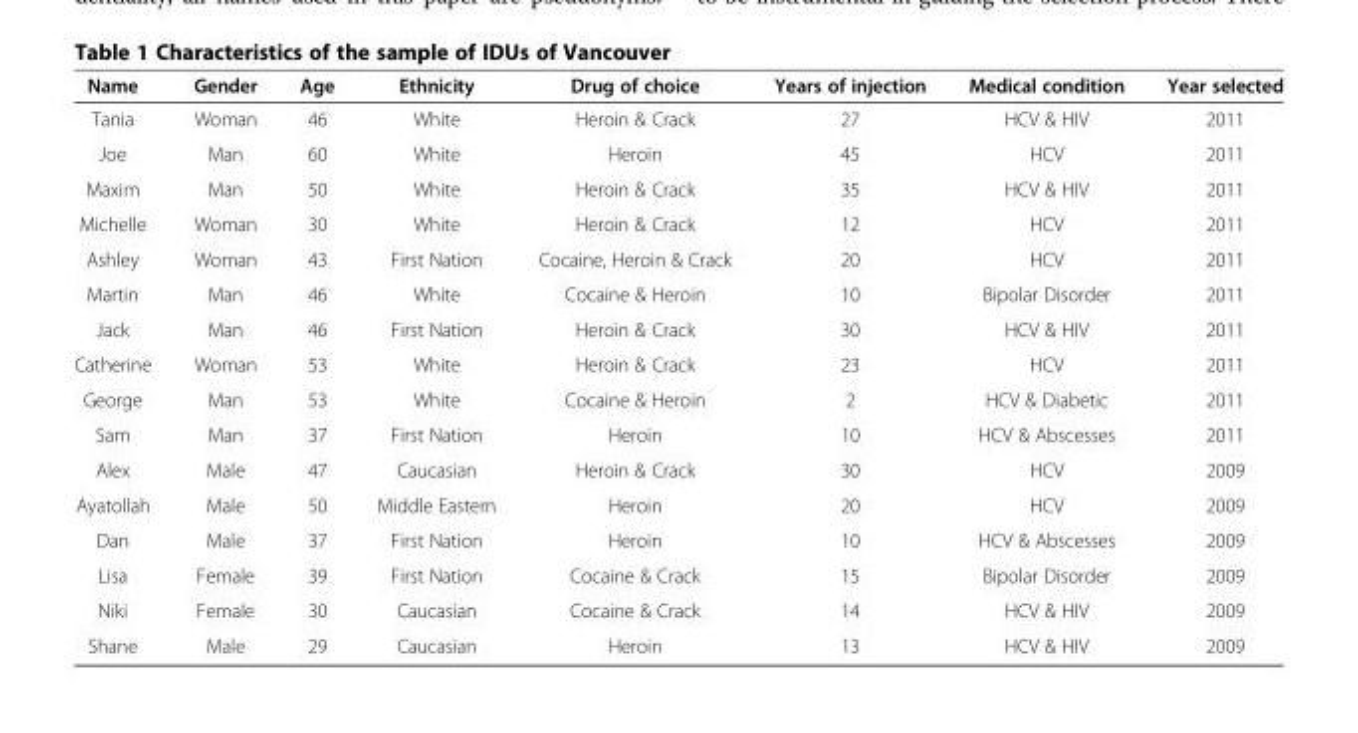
<table><thead><tr><td>Name</td><td>Gender</td><td>Age</td><td>Ethnicity</td><td>Drug of choice</td><td>Years of injection</td><td>Medical condition</td><td>Year selected</td></tr></thead><tbody><tr><td>Tania</td><td>Woman</td><td>46</td><td>White</td><td>Heroin &amp; Crack</td><td>27</td><td>HCV &amp; HIV</td><td>2011</td></tr><tr><td>Joe</td><td>Man</td><td>60</td><td>White</td><td>Heroin</td><td>45</td><td>HCV</td><td>2011</td></tr><tr><td>Maxim</td><td>Man</td><td>50</td><td>White</td><td>Heroin &amp; Crack</td><td>35</td><td>HCV &amp; HIV</td><td>2011</td></tr><tr><td>Michelle</td><td>Woman</td><td>30</td><td>White</td><td>Heroin &amp; Crack</td><td>12</td><td>HCV</td><td>2011</td></tr><tr><td>Ashley</td><td>Woman</td><td>43</td><td>First Nation</td><td>Cocaine, Heroin &amp; Crack</td><td>20</td><td>HCV</td><td>2011</td></tr><tr><td>Martin</td><td>Man</td><td>46</td><td>White</td><td>Cocaine &amp; Heroin</td><td>10</td><td>Bipolar Disorder</td><td>2011</td></tr><tr><td>Jack</td><td>Man</td><td>46</td><td>First Nation</td><td>Heroin &amp; Crack</td><td>30</td><td>HCV &amp; HIV</td><td>2011</td></tr><tr><td>Catherine</td><td>Woman</td><td>53</td><td>White</td><td>Heroin &amp; Crack</td><td>23</td><td>HCV</td><td>2011</td></tr><tr><td>George</td><td>Man</td><td>53</td><td>White</td><td>Cocaine &amp; Heroin</td><td>2</td><td>HCV &amp; Diabetic</td><td>2011</td></tr><tr><td>Sam</td><td>Man</td><td>37</td><td>First Nation</td><td>Heroin</td><td>10</td><td>HCV &amp; Abscesses</td><td>2011</td></tr><tr><td>Alex</td><td>Male</td><td>47</td><td>Caucasian</td><td>Heroin &amp; Crack</td><td>30</td><td>HCV</td><td>2009</td></tr><tr><td>Ayatollah</td><td>Male</td><td>50</td><td>Middle Eastern</td><td>Heroin</td><td>20</td><td>HCV</td><td>2009</td></tr><tr><td>Dan</td><td>Male</td><td>37</td><td>First Nation</td><td>Heroin</td><td>10</td><td>HCV &amp; Abscesses</td><td>2009</td></tr><tr><td>Lisa</td><td>Female</td><td>39</td><td>First Nation</td><td>Cocaine &amp; Crack</td><td>15</td><td>Bipolar Disorder</td><td>2009</td></tr><tr><td>Niki</td><td>Female</td><td>30</td><td>Caucasian</td><td>Cocaine &amp; Crack</td><td>14</td><td>HCV &amp; HIV</td><td>2009</td></tr><tr><td>Shane</td><td>Male</td><td>29</td><td>Caucasian</td><td>Heroin</td><td>13</td><td>HCV &amp; HIV</td><td>2009</td></tr></tbody></table>